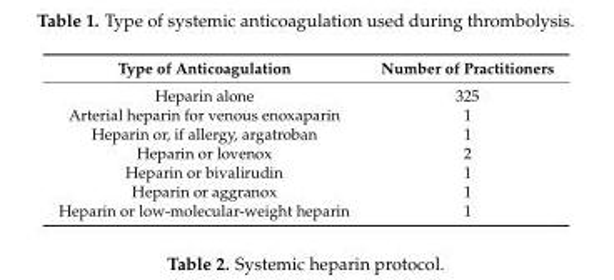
<table><thead><tr><td>Type of Anticoagulation</td><td>Number of Practitioners</td></tr></thead><tbody><tr><td>Heparin alone</td><td>325</td></tr><tr><td>Arterial heparin for venous enoxaparin</td><td>1</td></tr><tr><td>Heparin or, if allergy, argatroban</td><td>1</td></tr><tr><td>Heparin or lovenox</td><td>2</td></tr><tr><td>Heparin or bivalirudin</td><td>1</td></tr><tr><td>Heparin or aggranox</td><td>1</td></tr><tr><td>Heparin or low-molecular-weight heparin</td><td>1</td></tr></tbody></table>